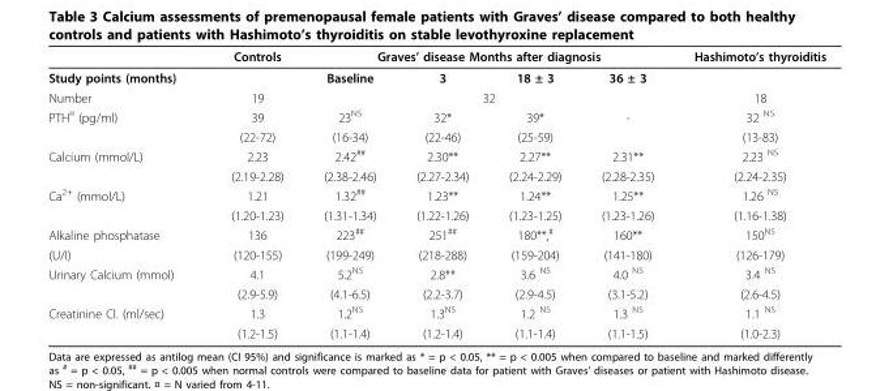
<table><thead><tr><td rowspan="2">Study points (months)</td><td rowspan="2">Controls</td><td colspan="4">Graves’ disease Months after diagnosis</td><td rowspan="2">Hashimoto’s thyroiditis</td></tr><tr><td>Baseline</td><td>3</td><td>18 ± 3</td><td>36 ± 3</td></tr></thead><tbody><tr><td>Number</td><td>19</td><td colspan="4">32</td><td>18</td></tr><tr><td rowspan="2">PTH<sup>¤</sup> (pg/ml)</td><td>39</td><td>23<sup>NS</sup></td><td>32*</td><td>39*</td><td>-</td><td>32 <sup>NS</sup></td></tr><tr><td>(22-72)</td><td>(16-34)</td><td>(22-46)</td><td>(25-59)</td><td></td><td>(13-83)</td></tr><tr><td rowspan="2">Calcium (mmol/L)</td><td>2.23</td><td>2.42<sup>##</sup></td><td>2.30**</td><td>2.27**</td><td>2.31**</td><td>2.23 <sup>NS</sup></td></tr><tr><td>(2.19-2.28)</td><td>(2.38-2.46)</td><td>(2.27-2.34)</td><td>(2.24-2.29)</td><td>(2.28-2.35)</td><td>(2.24-2.35)</td></tr><tr><td rowspan="2">Ca<sup>2+</sup> (mmol/L)</td><td>1.21</td><td>1.32<sup>##</sup></td><td>1.23**</td><td>1.24**</td><td>1.25**</td><td>1.26 <sup>NS</sup></td></tr><tr><td>(1.20-1.23)</td><td>(1.31-1.34)</td><td>(1.22-1.26)</td><td>(1.23-1.25)</td><td>(1.23-1.26)</td><td>(1.16-1.38)</td></tr><tr><td>Alkaline phosphatase</td><td>136</td><td>223<sup>##</sup></td><td>251<sup>##</sup></td><td>180**,<sup>#</sup></td><td>160**</td><td>150<sup>NS</sup></td></tr><tr><td>(U/I)</td><td>(120-155)</td><td>(199-249)</td><td>(218-288)</td><td>(159-204)</td><td>(141-180)</td><td>(126-179)</td></tr><tr><td rowspan="2">Urinary Calcium (mmol)</td><td>4.1</td><td>5.2<sup>NS</sup></td><td>2.8**</td><td>3.6 <sup>NS</sup></td><td>4.0 <sup>NS</sup></td><td>3.4 <sup>NS</sup></td></tr><tr><td>(2.9-5.9)</td><td>(4.1-6.5)</td><td>(2.2-3.7)</td><td>(2.9-4.5)</td><td>(3.1-5.2)</td><td>(2.6-4.5)</td></tr><tr><td rowspan="2">Creatinine Cl. (ml/sec)</td><td>1.3</td><td>1.2<sup>NS</sup></td><td>1.3<sup>NS</sup></td><td>1.2 <sup>NS</sup></td><td>1.3 <sup>NS</sup></td><td>1.1 <sup>NS</sup></td></tr><tr><td>(1.2-1.5)</td><td>(1.1-1.4)</td><td>(1.2-1.4)</td><td>(1.1-1.4)</td><td>(1.1-1.5)</td><td>(1.0-2.3)</td></tr></tbody></table>